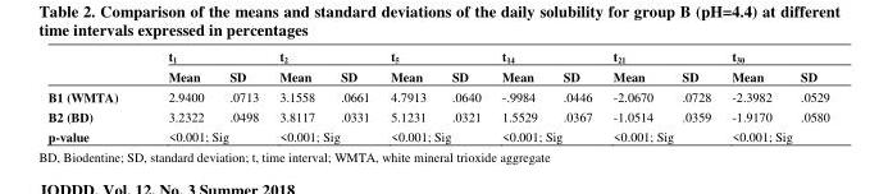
<table><thead><tr><td rowspan="2"></td><td colspan="2">t<sub>1</sub></td><td colspan="2">t<sub>2</sub></td><td colspan="2">t<sub>5</sub></td><td colspan="2">t<sub>14</sub></td><td colspan="2">t<sub>21</sub></td><td colspan="2">t<sub>30</sub></td></tr><tr><td>Mean</td><td>SD</td><td>Mean</td><td>SD</td><td>Mean</td><td>SD</td><td>Mean</td><td>SD</td><td>Mean</td><td>SD</td><td>Mean</td><td>SD</td></tr></thead><tbody><tr><td>B1 (WMTA)</td><td>2.9400</td><td>.0713</td><td>3.1558</td><td>.0661</td><td>4.7913</td><td>.0640</td><td>-.9984</td><td>.0446</td><td>-2.0670</td><td>.0728</td><td>-2.3982</td><td>.0529</td></tr><tr><td>B2 (BD)</td><td>3.2322</td><td>.0498</td><td>3.8117</td><td>.0331</td><td>5.1231</td><td>.0321</td><td>1.5529</td><td>.0367</td><td>-1.0514</td><td>.0359</td><td>-1.9170</td><td>.0580</td></tr><tr><td>p-value</td><td colspan="2">&lt;0.001; Sig</td><td colspan="2">&lt;0.001; Sig</td><td colspan="2">&lt;0.001; Sig</td><td colspan="2">&lt;0.001; Sig</td><td colspan="2">&lt;0.001; Sig</td><td colspan="2">&lt;0.001; Sig</td></tr></tbody></table>